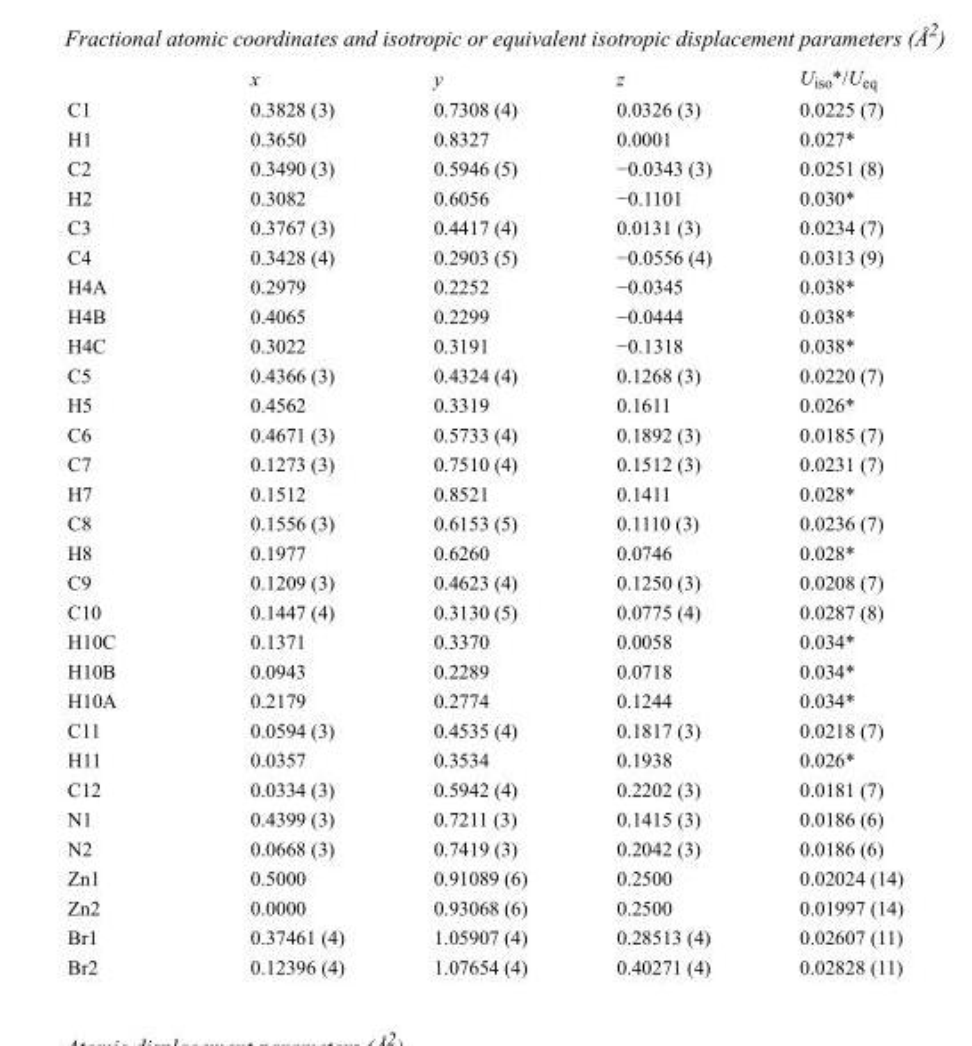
<table><thead><tr><td></td><td>x</td><td>y</td><td>z</td><td>U<sub>iso</sub>*/U<sub>eq</sub></td></tr></thead><tbody><tr><td>C1</td><td>0.3828 (3)</td><td>0.7308 (4)</td><td>0.0326 (3)</td><td>0.0225 (7)</td></tr><tr><td>H1</td><td>0.3650</td><td>0.8327</td><td>0.0001</td><td>0.027*</td></tr><tr><td>C2</td><td>0.3490 (3)</td><td>0.5946 (5)</td><td>−0.0343 (3)</td><td>0.0251 (8)</td></tr><tr><td>H2</td><td>0.3082</td><td>0.6056</td><td>−0.1101</td><td>0.030*</td></tr><tr><td>C3</td><td>0.3767 (3)</td><td>0.4417 (4)</td><td>0.0131 (3)</td><td>0.0234 (7)</td></tr><tr><td>C4</td><td>0.3428 (4)</td><td>0.2903 (5)</td><td>−0.0556 (4)</td><td>0.0313 (9)</td></tr><tr><td>H4A</td><td>0.2979</td><td>0.2252</td><td>−0.0345</td><td>0.038*</td></tr><tr><td>H4B</td><td>0.4065</td><td>0.2299</td><td>−0.0444</td><td>0.038*</td></tr><tr><td>H4C</td><td>0.3022</td><td>0.3191</td><td>−0.1318</td><td>0.038*</td></tr><tr><td>C5</td><td>0.4366 (3)</td><td>0.4324 (4)</td><td>0.1268 (3)</td><td>0.0220 (7)</td></tr><tr><td>H5</td><td>0.4562</td><td>0.3319</td><td>0.1611</td><td>0.026*</td></tr><tr><td>C6</td><td>0.4671 (3)</td><td>0.5733 (4)</td><td>0.1892 (3)</td><td>0.0185 (7)</td></tr><tr><td>C7</td><td>0.1273 (3)</td><td>0.7510 (4)</td><td>0.1512 (3)</td><td>0.0231 (7)</td></tr><tr><td>H7</td><td>0.1512</td><td>0.8521</td><td>0.1411</td><td>0.028*</td></tr><tr><td>C8</td><td>0.1556 (3)</td><td>0.6153 (5)</td><td>0.1110 (3)</td><td>0.0236 (7)</td></tr><tr><td>H8</td><td>0.1977</td><td>0.6260</td><td>0.0746</td><td>0.028*</td></tr><tr><td>C9</td><td>0.1209 (3)</td><td>0.4623 (4)</td><td>0.1250 (3)</td><td>0.0208 (7)</td></tr><tr><td>C10</td><td>0.1447 (4)</td><td>0.3130 (5)</td><td>0.0775 (4)</td><td>0.0287 (8)</td></tr><tr><td>H10C</td><td>0.1371</td><td>0.3370</td><td>0.0058</td><td>0.034*</td></tr><tr><td>H10B</td><td>0.0943</td><td>0.2289</td><td>0.0718</td><td>0.034*</td></tr><tr><td>H10A</td><td>0.2179</td><td>0.2774</td><td>0.1244</td><td>0.034*</td></tr><tr><td>C11</td><td>0.0594 (3)</td><td>0.4535 (4)</td><td>0.1817 (3)</td><td>0.0218 (7)</td></tr><tr><td>H11</td><td>0.0357</td><td>0.3534</td><td>0.1938</td><td>0.026*</td></tr><tr><td>C12</td><td>0.0334 (3)</td><td>0.5942 (4)</td><td>0.2202 (3)</td><td>0.0181 (7)</td></tr><tr><td>N1</td><td>0.4399 (3)</td><td>0.7211 (3)</td><td>0.1415 (3)</td><td>0.0186 (6)</td></tr><tr><td>N2</td><td>0.0668 (3)</td><td>0.7419 (3)</td><td>0.2042 (3)</td><td>0.0186 (6)</td></tr><tr><td>Zn1</td><td>0.5000</td><td>0.91089 (6)</td><td>0.2500</td><td>0.02024 (14)</td></tr><tr><td>Zn2</td><td>0.0000</td><td>0.93068 (6)</td><td>0.2500</td><td>0.01997 (14)</td></tr><tr><td>Br1</td><td>0.37461 (4)</td><td>1.05907 (4)</td><td>0.28513 (4)</td><td>0.02607 (11)</td></tr><tr><td>Br2</td><td>0.12396 (4)</td><td>1.07654 (4)</td><td>0.40271 (4)</td><td>0.02828 (11)</td></tr></tbody></table>